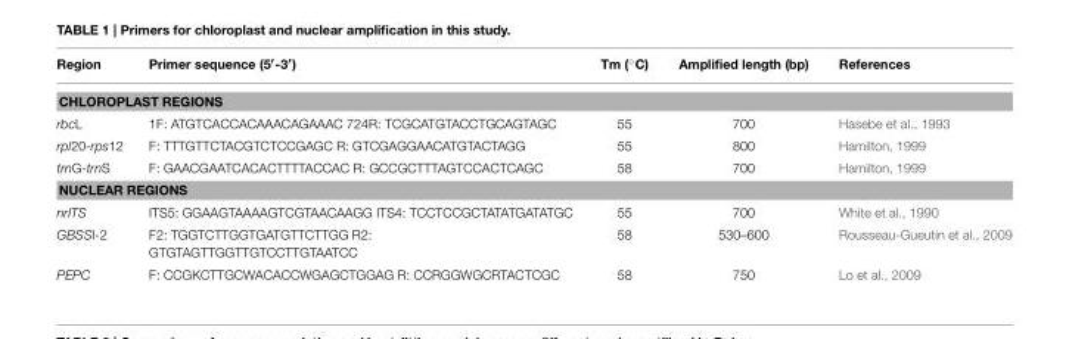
<table><thead><tr><td>Region</td><td>Primer sequence (5′-3′)</td><td>Tm (◦C)</td><td>Amplified length (bp)</td><td>References</td></tr></thead><tbody><tr><td colspan="5">CHLOROPLAST REGIONS</td></tr><tr><td>rbcL</td><td>1F: ATGTCACCACAAACAGAAAC 724R: TCGCATGTACCTGCAGTAGC</td><td>55</td><td>700</td><td>Hasebe et al., 1993</td></tr><tr><td>rpl20-rps12</td><td>F: TTTGTTCTACGTCTCCGAGC R: GTCGAGGAACATGTACTAGG</td><td>55</td><td>800</td><td>Hamilton, 1999</td></tr><tr><td>trnG-trnS</td><td>F: GAACGAATCACACTTTTACCAC R: GCCGCTTTAGTCCACTCAGC</td><td>58</td><td>700</td><td>Hamilton, 1999</td></tr><tr><td colspan="5">NUCLEAR REGIONS</td></tr><tr><td>nrITS</td><td>ITS5: GGAAGTAAAAGTCGTAACAAGG ITS4: TCCTCCGCTATATGATATGC</td><td>55</td><td>700</td><td>White et al., 1990</td></tr><tr><td>GBSSI-2</td><td>F2: TGGTCTTGGTGATGTTCTTGG R2: GTGTAGTTGGTTGTCCTTGTAATCC</td><td>58</td><td>530–600</td><td>Rousseau-Gueutin et al., 2009</td></tr><tr><td>PEPC</td><td>F: CCGKCTTGCWACACCWGAGCTGGAG R: CCRGGWGCRTACTCGC</td><td>58</td><td>750</td><td>Lo et al., 2009</td></tr></tbody></table>